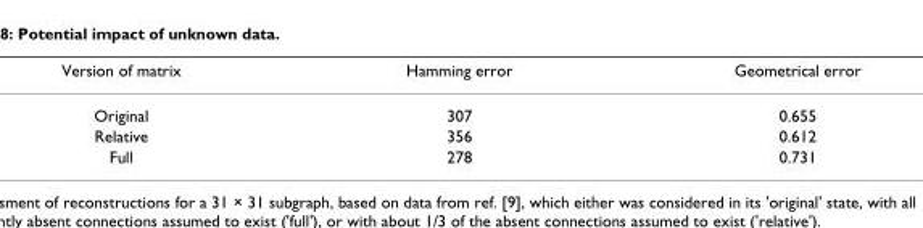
<table><thead><tr><td>Version of matrix</td><td>Hamming error</td><td>Geometrical error</td></tr></thead><tbody><tr><td>Original</td><td>307</td><td>0.655</td></tr><tr><td>Relative</td><td>356</td><td>0.612</td></tr><tr><td>Full</td><td>278</td><td>0.731</td></tr></tbody></table>